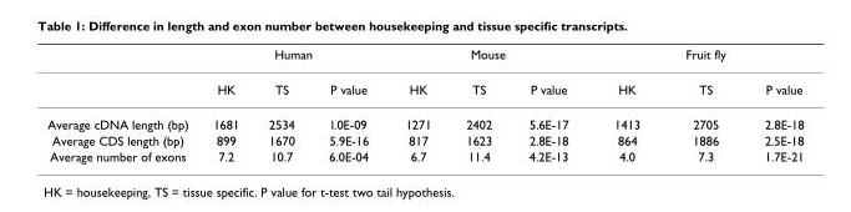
<table><thead><tr><td rowspan="2"></td><td colspan="3">Human</td><td colspan="3">Mouse</td><td colspan="3">Fruit fly</td></tr><tr><td>HK</td><td>TS</td><td>P value</td><td>HK</td><td>TS</td><td>P value</td><td>HK</td><td>TS</td><td>P value</td></tr></thead><tbody><tr><td>Average cDNA length (bp)</td><td>1681</td><td>2534</td><td>l.0E-09</td><td>1271</td><td>2402</td><td>5.6E-17</td><td>1413</td><td>2705</td><td>2.8E-18</td></tr><tr><td>Average CDS length (bp)</td><td>899</td><td>1670</td><td>5.9E-16</td><td>817</td><td>1623</td><td>2.8E-18</td><td>864</td><td>1886</td><td>2.5E-18</td></tr><tr><td>Average number of exons</td><td>7.2</td><td>10.7</td><td>6.0E-04</td><td>6.7</td><td>11.4</td><td>4.2E-13</td><td>4.0</td><td>7.3</td><td>1.7E-21</td></tr></tbody></table>